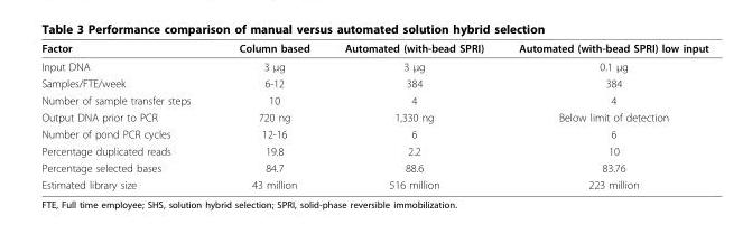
<table><thead><tr><td>Factor</td><td>Column based</td><td>Automated (with-bead SPRI)</td><td>Automated (with-bead SPRI) low input</td></tr></thead><tbody><tr><td>Input DNA</td><td>3 μg</td><td>3 μg</td><td>0.1 μg</td></tr><tr><td>Samples/FTE/week</td><td>6-12</td><td>384</td><td>384</td></tr><tr><td>Number of sample transfer steps</td><td>10</td><td>4</td><td>4</td></tr><tr><td>Output DNA prior to PCR</td><td>720 ng</td><td>1,330 ng</td><td>Below limit of detection</td></tr><tr><td>Number of pond PCR cycles</td><td>12-16</td><td>6</td><td>6</td></tr><tr><td>Percentage duplicated reads</td><td>19.8</td><td>2.2</td><td>10</td></tr><tr><td>Percentage selected bases</td><td>84.7</td><td>88.6</td><td>83.76</td></tr><tr><td>Estimated library size</td><td>43 million</td><td>516 million</td><td>223 million</td></tr></tbody></table>